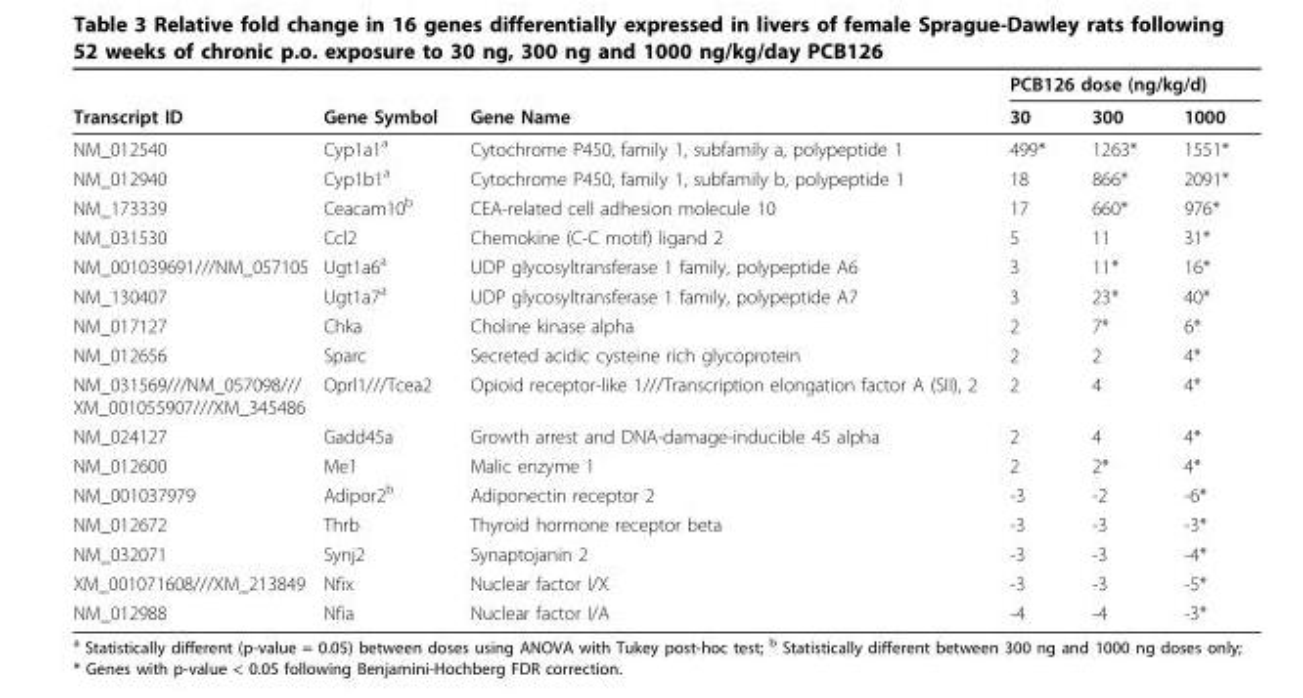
<table><thead><tr><td rowspan="2">Transcript ID</td><td rowspan="2">Gene Symbol</td><td rowspan="2">Gene Name</td><td colspan="3">PCB126 dose (ng/kg/d)</td></tr><tr><td>30</td><td>300</td><td>1000</td></tr></thead><tbody><tr><td>NM_012540</td><td>Cyp1a1<sup>a</sup></td><td>Cytochrome P450, family 1, subfamily a, polypeptide 1</td><td>499*</td><td>1263*</td><td>1551*</td></tr><tr><td>NM_012940</td><td>Cyp1b1<sup>a</sup></td><td>Cytochrome P450, family 1, subfamily b, polypeptide 1</td><td>18</td><td>866*</td><td>2091*</td></tr><tr><td>NM_173339</td><td>Ceacam10<sup>b</sup></td><td>CEA-related cell adhesion molecule 10</td><td>17</td><td>660*</td><td>976*</td></tr><tr><td>NM_031530</td><td>Ccl2</td><td>Chemokine (C-C motif) ligand 2</td><td>5</td><td>11</td><td>31*</td></tr><tr><td>NM_001039691///NM_057105</td><td>Ugt1a6<sup>a</sup></td><td>UDP glycosyltransferase 1 family, polypeptide A6</td><td>3</td><td>11*</td><td>16*</td></tr><tr><td>NM_130407</td><td>Ugt1a7<sup>a</sup></td><td>UDP glycosyltransferase 1 family, polypeptide A7</td><td>3</td><td>23*</td><td>40*</td></tr><tr><td>NM_017127</td><td>Chka</td><td>Choline kinase alpha</td><td>2</td><td>7*</td><td>6*</td></tr><tr><td>NM_012656</td><td>Sparc</td><td>Secreted acidic cysteine rich glycoprotein</td><td>2</td><td>2</td><td>4*</td></tr><tr><td>NM_031569///NM_057098/// XM_001055907///XM_345486</td><td>Oprl1///Tcea2</td><td>Opioid receptor-like 1///Transcription elongation factor A (SII), 2</td><td>2</td><td>4</td><td>4*</td></tr><tr><td>NM_024127</td><td>Gadd45a</td><td>Growth arrest and DNA-damage-inducible 45 alpha</td><td>2</td><td>4</td><td>4*</td></tr><tr><td>NM_012600</td><td>Me1</td><td>Malic enzyme 1</td><td>2</td><td>2*</td><td>4*</td></tr><tr><td>NM_001037979</td><td>Adipor2<sup>b</sup></td><td>Adiponectin receptor 2</td><td>-3</td><td>-2</td><td>-6*</td></tr><tr><td>NM_012672</td><td>Thrb</td><td>Thyroid hormone receptor beta</td><td>-3</td><td>-3</td><td>-3*</td></tr><tr><td>NM_032071</td><td>Synj2</td><td>Synaptojanin 2</td><td>-3</td><td>-3</td><td>-4*</td></tr><tr><td>XM_001071608///XM_213849</td><td>Nfix</td><td>Nuclear factor I/X</td><td>-3</td><td>-3</td><td>-5*</td></tr><tr><td>NM_012988</td><td>Nfia</td><td>Nuclear factor I/A</td><td>-4</td><td>-4</td><td>-3*</td></tr></tbody></table>